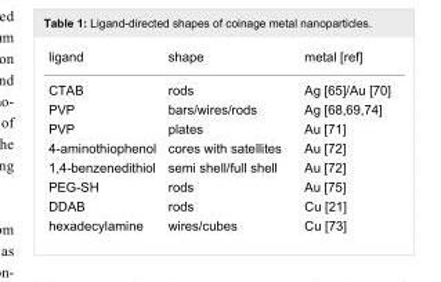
<table><tbody><tr><td>ligand</td><td>shape</td><td>metal [ref]</td></tr><tr><td>CTAB</td><td>rods</td><td>Ag [65]/Au [70]</td></tr><tr><td>PVP</td><td>bars/wires/rods</td><td>Ag [68,69,74]</td></tr><tr><td>PVP</td><td>plates</td><td>Au [71]</td></tr><tr><td>4-aminothiophenol</td><td>cores with satellites</td><td>Au [72]</td></tr><tr><td>1,4-benzenedithiol</td><td>semi shell/full shell</td><td>Au [72]</td></tr><tr><td>PEG-SH</td><td>rods</td><td>Au [75]</td></tr><tr><td>DDAB</td><td>rods</td><td>Cu [21]</td></tr><tr><td>hexadecylamine</td><td>wires/cubes</td><td>Cu [73]</td></tr></tbody></table>